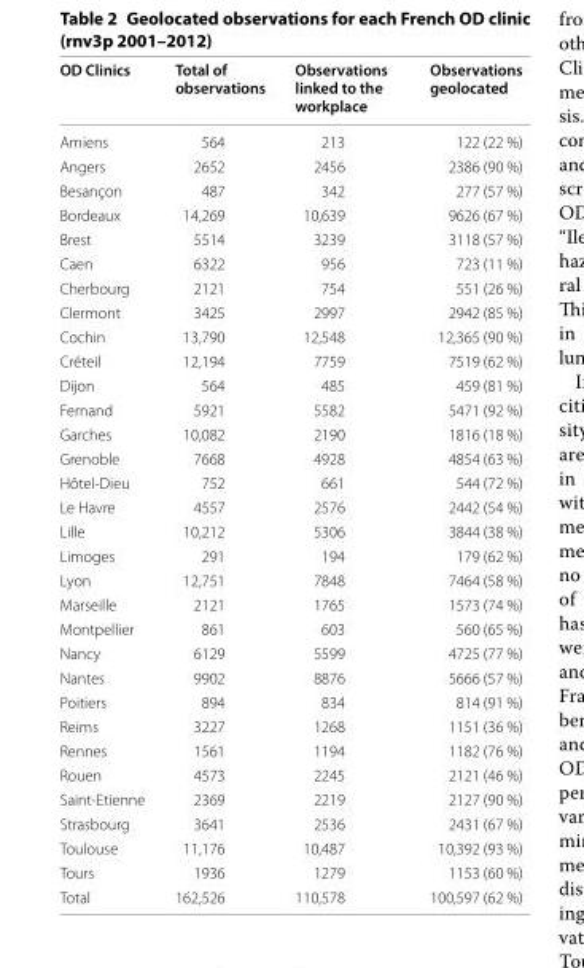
<table><thead><tr><td>OD Clinics</td><td>Total of observations</td><td>Observations linked to the workplace</td><td>Observations geolocated</td></tr></thead><tbody><tr><td>Amiens</td><td>564</td><td>213</td><td>122 (22 %)</td></tr><tr><td>Angers</td><td>2652</td><td>2456</td><td>2386 (90 %)</td></tr><tr><td>Besançon</td><td>487</td><td>342</td><td>277 (57 %)</td></tr><tr><td>Bordeaux</td><td>14,269</td><td>10,639</td><td>9626 (67 %)</td></tr><tr><td>Brest</td><td>5514</td><td>3239</td><td>3118 (57 %)</td></tr><tr><td>Caen</td><td>6322</td><td>956</td><td>723 (11 %)</td></tr><tr><td>Cherbourg</td><td>2121</td><td>754</td><td>551 (26 %)</td></tr><tr><td>Clermont</td><td>3425</td><td>2997</td><td>2942 (85 %)</td></tr><tr><td>Cochin</td><td>13,790</td><td>12,548</td><td>12,365 (90 %)</td></tr><tr><td>Créteil</td><td>12,194</td><td>7759</td><td>7519 (62 %)</td></tr><tr><td>Dijon</td><td>564</td><td>485</td><td>459 (81 %)</td></tr><tr><td>Fernand</td><td>5921</td><td>5582</td><td>5471 (92 %)</td></tr><tr><td>Garches</td><td>10,082</td><td>2190</td><td>1816 (18 %)</td></tr><tr><td>Grenoble</td><td>7668</td><td>4928</td><td>4854 (63 %)</td></tr><tr><td>Hôtel‑Dieu</td><td>752</td><td>661</td><td>544 (72 %)</td></tr><tr><td>Le Havre</td><td>4557</td><td>2576</td><td>2442 (54 %)</td></tr><tr><td>Lille</td><td>10,212</td><td>5306</td><td>3844 (38 %)</td></tr><tr><td>Limoges</td><td>291</td><td>194</td><td>179 (62 %)</td></tr><tr><td>Lyon</td><td>12,751</td><td>7848</td><td>7464 (58 %)</td></tr><tr><td>Marseille</td><td>2121</td><td>1765</td><td>1573 (74 %)</td></tr><tr><td>Montpellier</td><td>861</td><td>603</td><td>560 (65 %)</td></tr><tr><td>Nancy</td><td>6129</td><td>5599</td><td>4725 (77 %)</td></tr><tr><td>Nantes</td><td>9902</td><td>8876</td><td>5666 (57 %)</td></tr><tr><td>Poitiers</td><td>894</td><td>834</td><td>814 (91 %)</td></tr><tr><td>Reims</td><td>3227</td><td>1268</td><td>1151 (36 %)</td></tr><tr><td>Rennes</td><td>1561</td><td>1194</td><td>1182 (76 %)</td></tr><tr><td>Rouen</td><td>4573</td><td>2245</td><td>2121 (46 %)</td></tr><tr><td>Saint‑Etienne</td><td>2369</td><td>2219</td><td>2127 (90 %)</td></tr><tr><td>Strasbourg</td><td>3641</td><td>2536</td><td>2431 (67 %)</td></tr><tr><td>Toulouse</td><td>11,176</td><td>10,487</td><td>10,392 (93 %)</td></tr><tr><td>Tours</td><td>1936</td><td>1279</td><td>1153 (60 %)</td></tr><tr><td>Total</td><td>162,526</td><td>110,578</td><td>100,597 (62 %)</td></tr></tbody></table>